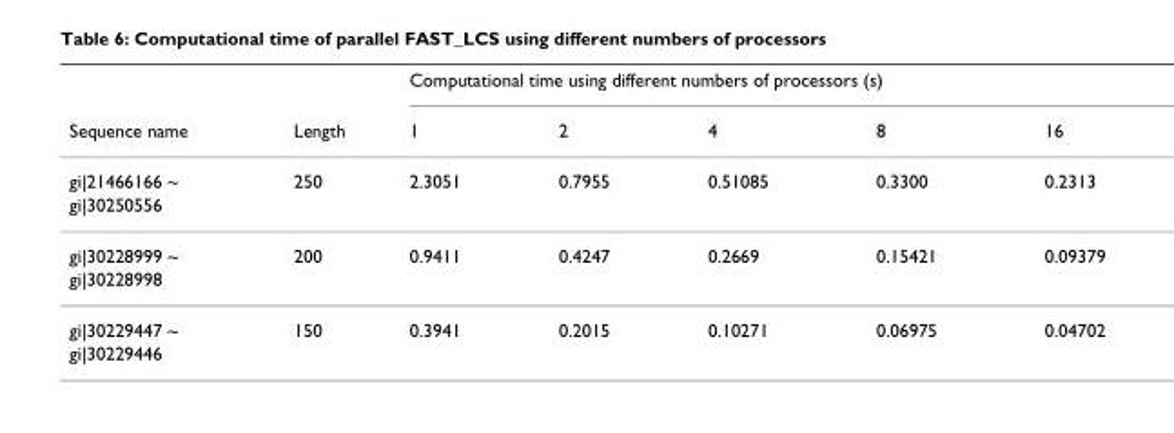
<table><thead><tr><td rowspan="2">Sequence name</td><td rowspan="2">Length</td><td colspan="5">Computational time using different numbers of processors (s)</td></tr><tr><td>1</td><td>2</td><td>4</td><td>8</td><td>16</td></tr></thead><tbody><tr><td>gi|21466166 ~</td><td>250</td><td>2.3051</td><td>0.7955</td><td>0.51085</td><td>0.3300</td><td>0.2313</td></tr><tr><td colspan="7">gi|30250556</td></tr><tr><td>gi|30228999 ~</td><td>200</td><td>0.9411</td><td>0.4247</td><td>0.2669</td><td>0.15421</td><td>0.09379</td></tr><tr><td colspan="7">gi|30228998</td></tr><tr><td>gi|30229447 ~</td><td>150</td><td>0.3941</td><td>0.2015</td><td>0.10271</td><td>0.06975</td><td>0.04702</td></tr><tr><td>gi|30229446</td><td></td><td></td><td></td><td></td><td></td><td></td></tr></tbody></table>